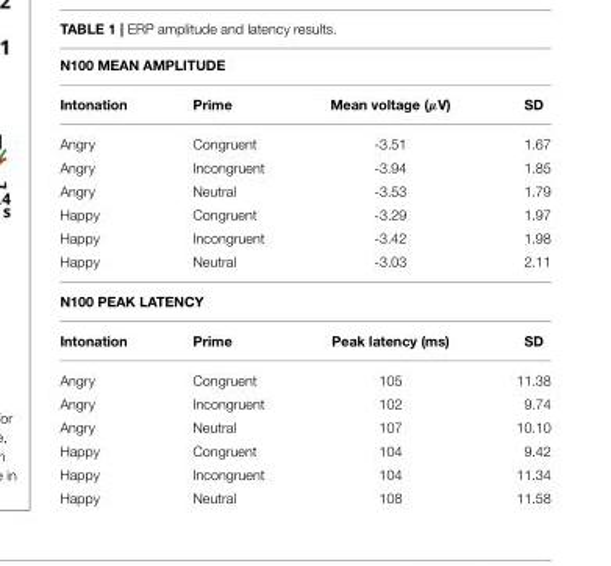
<table><thead><tr><td colspan="4">N100 MEAN AMPLITUDE</td></tr><tr><td>Intonation</td><td>Prime</td><td>Mean voltage (µV)</td><td>SD</td></tr></thead><tbody><tr><td>Angry</td><td>Congruent</td><td>-3.51</td><td>1.67</td></tr><tr><td>Angry</td><td>Incongruent</td><td>-3.94</td><td>1.85</td></tr><tr><td>Angry</td><td>Neutral</td><td>-3.53</td><td>1.79</td></tr><tr><td>Happy</td><td>Congruent</td><td>-3.29</td><td>1.97</td></tr><tr><td>Happy</td><td>Incongruent</td><td>-3.42</td><td>1.98</td></tr><tr><td>Happy</td><td>Neutral</td><td>-3.03</td><td>2.11</td></tr><tr><td colspan="4">N100 PEAK LATENCY</td></tr><tr><td>Intonation</td><td>Prime</td><td>Peak latency (ms)</td><td>SD</td></tr><tr><td>Angry</td><td>Congruent</td><td>105</td><td>11.38</td></tr><tr><td>Angry</td><td>Incongruent</td><td>102</td><td>9.74</td></tr><tr><td>Angry</td><td>Neutral</td><td>107</td><td>10.10</td></tr><tr><td>Happy</td><td>Congruent</td><td>104</td><td>9.42</td></tr><tr><td>Happy</td><td>Incongruent</td><td>104</td><td>11.34</td></tr><tr><td>Happy</td><td>Neutral</td><td>108</td><td>11.58</td></tr></tbody></table>